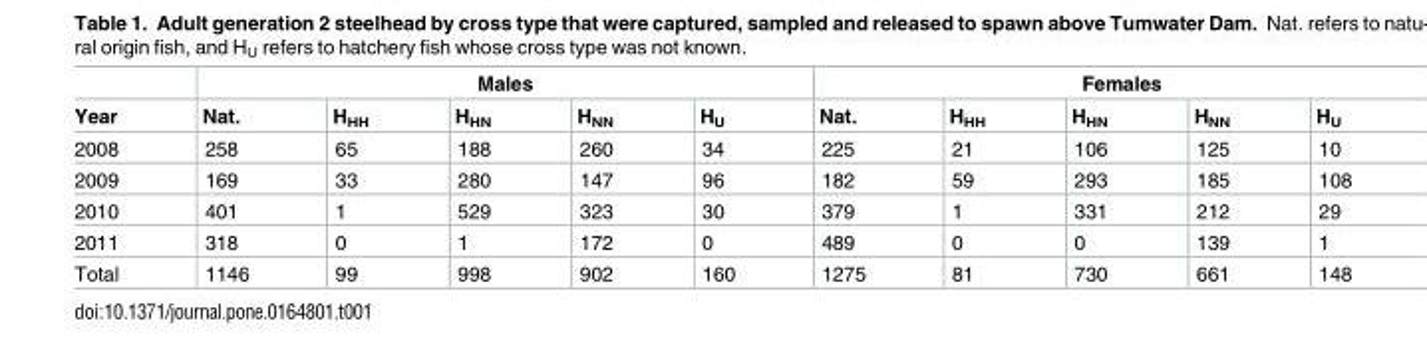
<table><thead><tr><td rowspan="2">Year</td><td colspan="5">Males</td><td colspan="5">Females</td></tr><tr><td>Nat.</td><td>H<sub>HH</sub></td><td>H<sub>HN</sub></td><td>H<sub>NN</sub></td><td>H<sub>U</sub></td><td>Nat.</td><td>H<sub>HH</sub></td><td>H<sub>HN</sub></td><td>H<sub>NN</sub></td><td>H<sub>U</sub></td></tr></thead><tbody><tr><td>2008</td><td>258</td><td>65</td><td>188</td><td>260</td><td>34</td><td>225</td><td>21</td><td>106</td><td>125</td><td>10</td></tr><tr><td>2009</td><td>169</td><td>33</td><td>280</td><td>147</td><td>96</td><td>182</td><td>59</td><td>293</td><td>185</td><td>108</td></tr><tr><td>2010</td><td>401</td><td>1</td><td>529</td><td>323</td><td>30</td><td>379</td><td>1</td><td>331</td><td>212</td><td>29</td></tr><tr><td>2011</td><td>318</td><td>0</td><td>1</td><td>172</td><td>0</td><td>489</td><td>0</td><td>0</td><td>139</td><td>1</td></tr><tr><td>Total</td><td>1146</td><td>99</td><td>998</td><td>902</td><td>160</td><td>1275</td><td>81</td><td>730</td><td>661</td><td>148</td></tr></tbody></table>